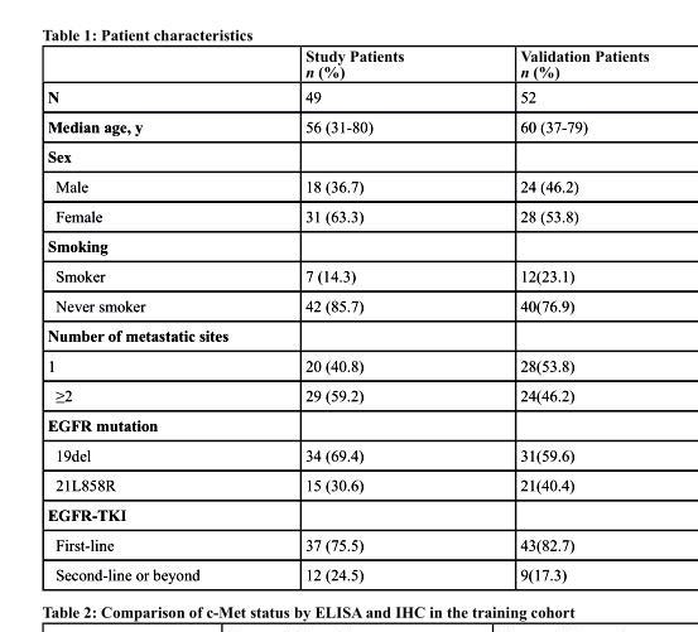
<table><thead><tr><td></td><td>study Patients n (%)</td><td>Validation Patients n (%)</td></tr></thead><tbody><tr><td>N</td><td>49</td><td>52</td></tr><tr><td>Median age, y</td><td>56 (31-80)</td><td>60 (37-79)</td></tr><tr><td colspan="3">sex</td></tr><tr><td>Male</td><td>18 (36.7)</td><td>24 (46.2)</td></tr><tr><td>Female</td><td>31 (63.3)</td><td>28 (53.8)</td></tr><tr><td colspan="3">smoking</td></tr><tr><td>Smoker</td><td>7 (14.3)</td><td>12(23.1)</td></tr><tr><td>Never smoker</td><td>42 (85.7)</td><td>40(76.9)</td></tr><tr><td colspan="3">Number of metastatic sites</td></tr><tr><td>1</td><td>20 (40.8)</td><td>28(53.8)</td></tr><tr><td>≥2</td><td>29 (59.2)</td><td>24(46.2)</td></tr><tr><td colspan="3">EGFr mutation</td></tr><tr><td>19del</td><td>34 (69.4)</td><td>31(59.6)</td></tr><tr><td>21L858R</td><td>15 (30.6)</td><td>21(40.4)</td></tr><tr><td colspan="3">EGFr-tKI</td></tr><tr><td>First-line</td><td>37 (75.5)</td><td>43(82.7)</td></tr><tr><td>Second-line or beyond</td><td>12 (24.5)</td><td>9(17.3)</td></tr></tbody></table>